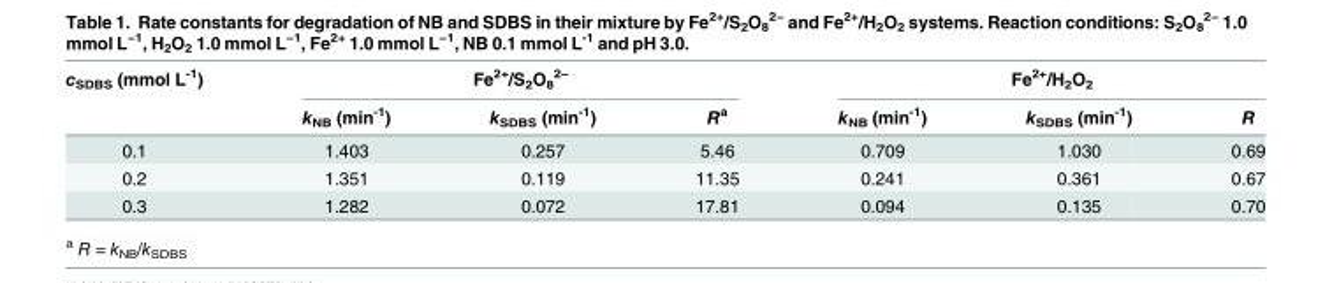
<table><thead><tr><td rowspan="2">c<sub>SDBS</sub> (mmol L<sup>-1</sup>)</td><td colspan="3">Fe<sup>2+</sup>/S<sub>2</sub>O<sub>8</sub> <sup>2−</sup></td><td colspan="3">Fe<sup>2+</sup>/H<sub>2</sub>O<sub>2</sub></td></tr><tr><td>k<sub>NB</sub> (min<sup>-1</sup>)</td><td>k<sub>SDBS</sub> (min<sup>-1</sup>)</td><td>R<sup>a</sup></td><td>k<sub>NB</sub> (min<sup>-1</sup>)</td><td>k<sub>SDBS</sub> (min<sup>-1</sup>)</td><td>R</td></tr></thead><tbody><tr><td>0.1</td><td>1.403</td><td>0.257</td><td>5.46</td><td>0.709</td><td>1.030</td><td>0.69</td></tr><tr><td>0.2</td><td>1.351</td><td>0.119</td><td>11.35</td><td>0.241</td><td>0.361</td><td>0.67</td></tr><tr><td>0.3</td><td>1.282</td><td>0.072</td><td>17.81</td><td>0.094</td><td>0.135</td><td>0.70</td></tr></tbody></table>